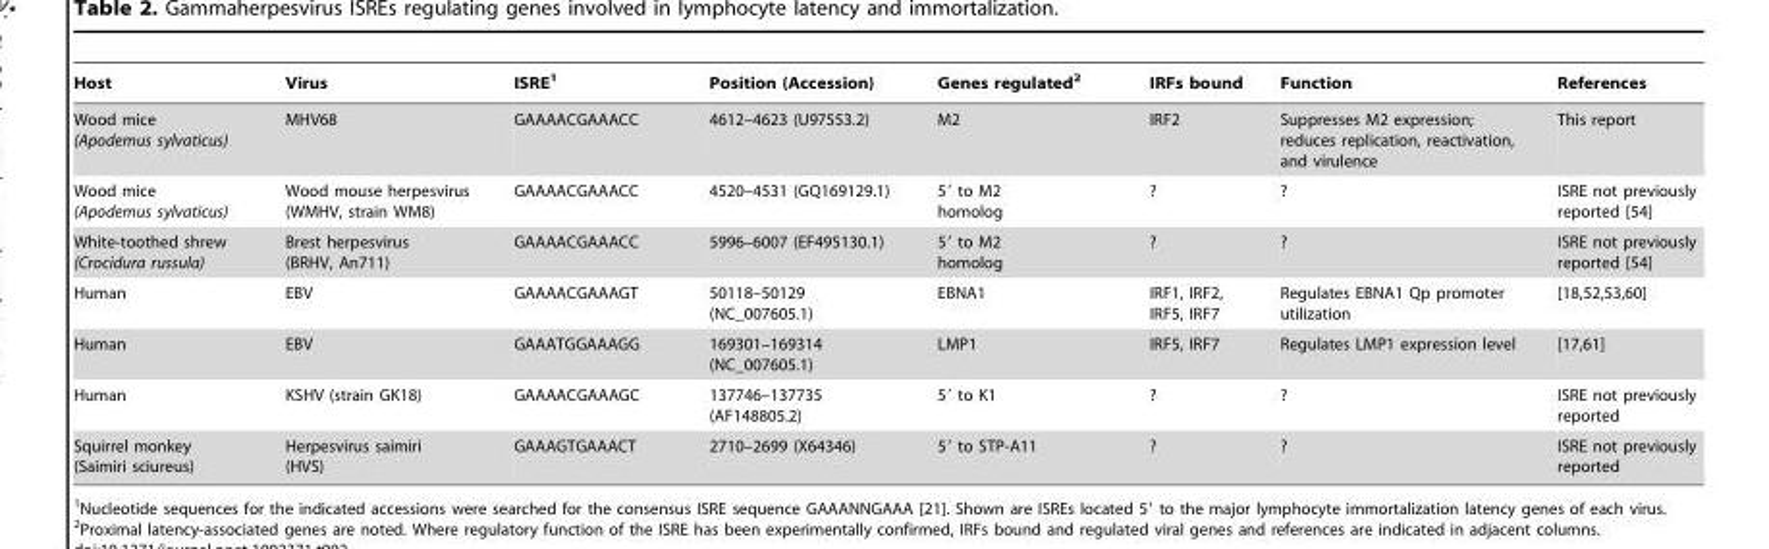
<table><thead><tr><td>Host</td><td>Virus</td><td>ISRE<sup>1</sup></td><td>Position (Accession)</td><td>Genes regulated<sup>2</sup></td><td>IRFs bound</td><td>Function</td><td>References</td></tr></thead><tbody><tr><td>Wood mice (Apodemus sylvaticus)</td><td>MHV68</td><td>GAAAACGAAACC</td><td>4612–4623 (U97553.2)</td><td>M2</td><td>IRF2</td><td>Suppresses M2 expression; reduces replication, reactivation, and virulence</td><td>This report</td></tr><tr><td>Wood mice (Apodemus sylvaticus)</td><td>Wood mouse herpesvirus (WMHV, strain WM8)</td><td>GAAAACGAAACC</td><td>4520–4531 (GQ169129.1)</td><td>5′ to M2 homolog</td><td>?</td><td>?</td><td>ISRE not previously reported [54]</td></tr><tr><td>White-toothed shrew (Crocidura russula)</td><td>Brest herpesvirus (BRHV, An711)</td><td>GAAAACGAAACC</td><td>5996–6007 (EF495130.1)</td><td>5′ to M2 homolog</td><td>?</td><td>?</td><td>ISRE not previously reported [54]</td></tr><tr><td>Human</td><td>EBV</td><td>GAAAACGAAAGT</td><td>50118–50129 (NC_007605.1)</td><td>EBNA1</td><td>IRF1, IRF2, IRF5, IRF7</td><td>Regulates EBNA1 Qp promoter utilization</td><td>[18,52,53,60]</td></tr><tr><td>Human</td><td>EBV</td><td>GAAATGGAAAGG</td><td>169301–169314 (NC_007605.1)</td><td>LMP1</td><td>IRF5, IRF7</td><td>Regulates LMP1 expression level</td><td>[17,61]</td></tr><tr><td>Human</td><td>KSHV (strain GK18)</td><td>GAAAACGAAAGC</td><td>137746–137735 (AF148805.2)</td><td>5′ to K1</td><td>?</td><td>?</td><td>ISRE not previously reported</td></tr><tr><td>Squirrel monkey (Saimiri sciureus)</td><td>Herpesvirus saimiri (HVS)</td><td>GAAAGTGAAACT</td><td>2710–2699 (X64346)</td><td>5′ to STP-A11</td><td>?</td><td>?</td><td>ISRE not previously reported</td></tr></tbody></table>